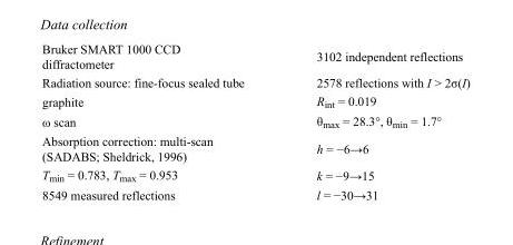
<table><tbody><tr><td>Bruker SMART 1000 CCD diffractometer</td><td>3102 independent reflections</td></tr><tr><td>Radiation source: fine-focus sealed tube</td><td>2578 reflections with I &gt; 2σ(I)</td></tr><tr><td>graphite</td><td>R<sub>int</sub> = 0.019</td></tr><tr><td>ω scan</td><td>θ<sub>max</sub> = 28.3°, θ<sub>min</sub> = 1.7°</td></tr><tr><td>Absorption correction: multi-scan (SADABS; Sheldrick, 1996)</td><td>h = −6→6</td></tr><tr><td>T<sub>min</sub> = 0.783, T<sub>max</sub> = 0.953</td><td>k = −9→15</td></tr><tr><td>8549 measured reflections</td><td>l = −30→31</td></tr></tbody></table>